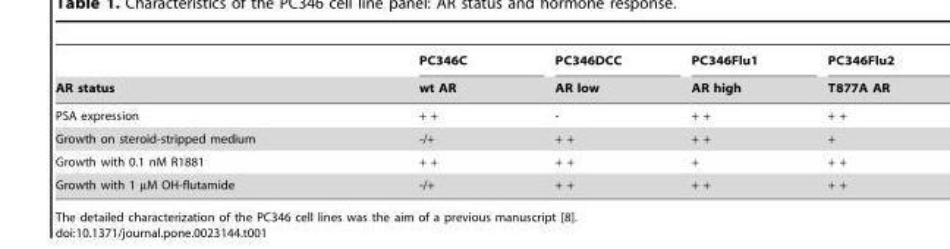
<table><thead><tr><td rowspan="2">AR status</td><td rowspan="2">PC346C wt AR</td><td rowspan="2">PC346DCC AR low</td><td rowspan="2">PC346Flu1 AR high</td><td rowspan="2">PC346Flu2 T877A AR</td></tr><tr></tr></thead><tbody><tr><td>PSA expression</td><td>+ +</td><td>-</td><td>+ +</td><td>+ +</td></tr><tr><td>Growth on steroid-stripped medium</td><td>-/+</td><td>+ +</td><td>+ +</td><td>+</td></tr><tr><td>Growth with 0.1 nM R1881</td><td>+ +</td><td>+ +</td><td>+</td><td>+ +</td></tr><tr><td>Growth with 1 µM OH-flutamide</td><td>-/+</td><td>+ +</td><td>+ +</td><td>+ +</td></tr></tbody></table>